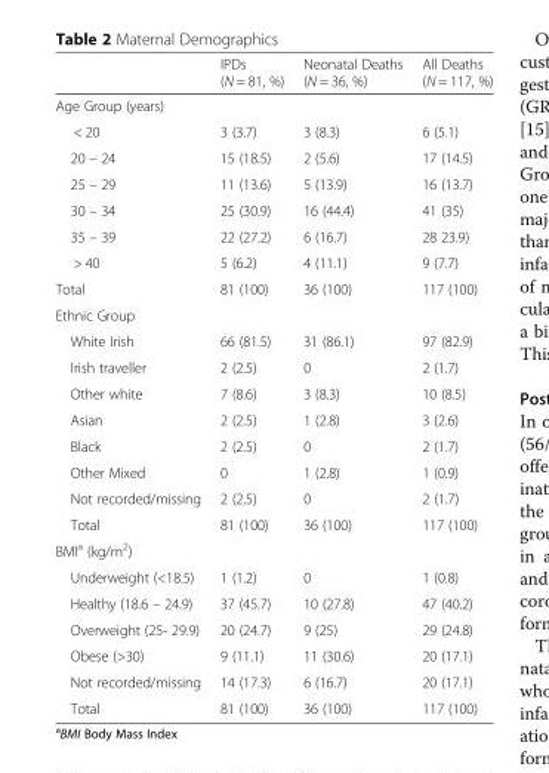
<table><thead><tr><td></td><td>IPDs (N = 81, %)</td><td>Neonatal Deaths (N = 36, %)</td><td>All Deaths (N = 117, %)</td></tr></thead><tbody><tr><td colspan="4">Age Group (years)</td></tr><tr><td>&lt; 20</td><td>3 (3.7)</td><td>3 (8.3)</td><td>6 (5.1)</td></tr><tr><td>20 – 24</td><td>15 (18.5)</td><td>2 (5.6)</td><td>17 (14.5)</td></tr><tr><td>25 – 29</td><td>11 (13.6)</td><td>5 (13.9)</td><td>16 (13.7)</td></tr><tr><td>30 – 34</td><td>25 (30.9)</td><td>16 (44.4)</td><td>41 (35)</td></tr><tr><td>35 – 39</td><td>22 (27.2)</td><td>6 (16.7)</td><td>28 23.9)</td></tr><tr><td>&gt; 40</td><td>5 (6.2)</td><td>4 (11.1)</td><td>9 (7.7)</td></tr><tr><td>Total</td><td>81 (100)</td><td>36 (100)</td><td>117 (100)</td></tr><tr><td colspan="4">Ethnic Group</td></tr><tr><td>White Irish</td><td>66 (81.5)</td><td>31 (86.1)</td><td>97 (82.9)</td></tr><tr><td>Irish traveller</td><td>2 (2.5)</td><td>0</td><td>2 (1.7)</td></tr><tr><td>Other white</td><td>7 (8.6)</td><td>3 (8.3)</td><td>10 (8.5)</td></tr><tr><td>Asian</td><td>2 (2.5)</td><td>1 (2.8)</td><td>3 (2.6)</td></tr><tr><td>Black</td><td>2 (2.5)</td><td>0</td><td>2 (1.7)</td></tr><tr><td>Other Mixed</td><td>0</td><td>1 (2.8)</td><td>1 (0.9)</td></tr><tr><td>Not recorded/missing</td><td>2 (2.5)</td><td>0</td><td>2 (1.7)</td></tr><tr><td>Total</td><td>81 (100)</td><td>36 (100)</td><td>117 (100)</td></tr><tr><td colspan="4">BMI<sup>a</sup> (kg/m<sup>2</sup>)</td></tr><tr><td>Underweight (&lt;18.5)</td><td>1 (1.2)</td><td>0</td><td>1 (0.8)</td></tr><tr><td>Healthy (18.6 – 24.9)</td><td>37 (45.7)</td><td>10 (27.8)</td><td>47 (40.2)</td></tr><tr><td>Overweight (25- 29.9)</td><td>20 (24.7)</td><td>9 (25)</td><td>29 (24.8)</td></tr><tr><td>Obese (&gt;30)</td><td>9 (11.1)</td><td>11 (30.6)</td><td>20 (17.1)</td></tr><tr><td>Not recorded/missing</td><td>14 (17.3)</td><td>6 (16.7)</td><td>20 (17.1)</td></tr><tr><td>Total</td><td>81 (100)</td><td>36 (100)</td><td>117 (100)</td></tr></tbody></table>